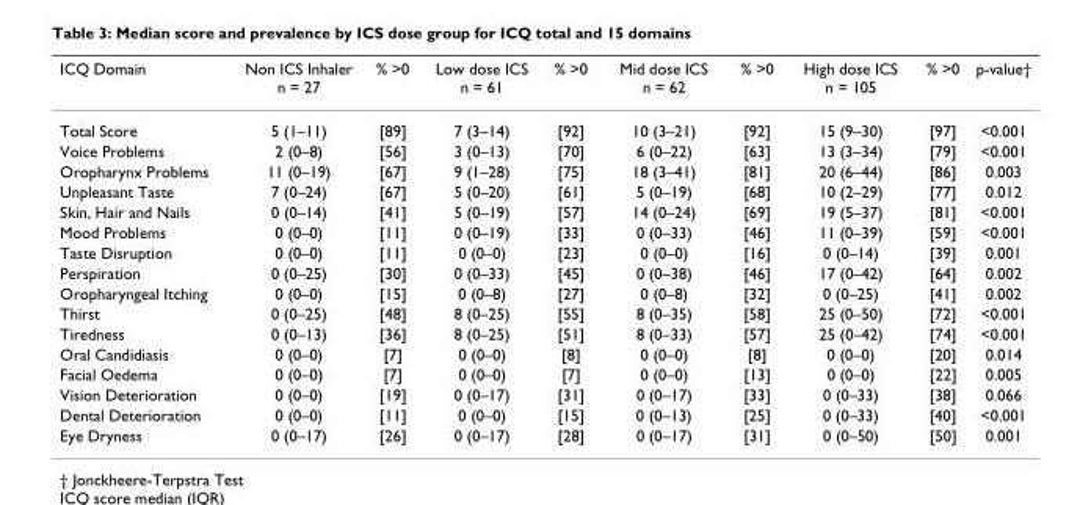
<table><thead><tr><td>ICQ Domain</td><td>Non ICS Inhaler n = 27</td><td>% &gt;0</td><td>Low dose ICS n = 61</td><td>% &gt;0</td><td>Mid dose ICS n = 62</td><td>% &gt;0</td><td>High dose ICS n = 105</td><td>% &gt;0</td><td>p-value†</td></tr></thead><tbody><tr><td>Total Score</td><td>5 (1–11)</td><td>[89]</td><td>7 (3–14)</td><td>[92]</td><td>10 (3–21)</td><td>[92]</td><td>15 (9–30)</td><td>[97]</td><td>&lt;0.001</td></tr><tr><td>Voice Problems</td><td>2 (0–8)</td><td>[56]</td><td>3 (0–13)</td><td>[70]</td><td>6 (0–22)</td><td>[63]</td><td>13 (3–34)</td><td>[79]</td><td>&lt;0.001</td></tr><tr><td>Oropharynx Problems</td><td>11 (0–19)</td><td>[67]</td><td>9 (1–28)</td><td>[75]</td><td>18 (3–41)</td><td>[81]</td><td>20 (6–44)</td><td>[86]</td><td>0.003</td></tr><tr><td>Unpleasant Taste</td><td>7 (0–24)</td><td>[67]</td><td>5 (0–20)</td><td>[61]</td><td>5 (0–19)</td><td>[68]</td><td>10 (2–29)</td><td>[77]</td><td>0.012</td></tr><tr><td>Skin, Hair and Nails</td><td>0 (0–14)</td><td>[41]</td><td>5 (0–19)</td><td>[57]</td><td>14 (0–24)</td><td>[69]</td><td>19 (5–37)</td><td>[81]</td><td>&lt;0.001</td></tr><tr><td>Mood Problems</td><td>0 (0–0)</td><td>[11]</td><td>0 (0–19)</td><td>[33]</td><td>0 (0–33)</td><td>[46]</td><td>11 (0–39)</td><td>[59]</td><td>&lt;0.001</td></tr><tr><td>Taste Disruption</td><td>0 (0–0)</td><td>[11]</td><td>0 (0–0)</td><td>[23]</td><td>0 (0–0)</td><td>[16]</td><td>0 (0–14)</td><td>[39]</td><td>0.001</td></tr><tr><td>Perspiration</td><td>0 (0–25)</td><td>[30]</td><td>0 (0–33)</td><td>[45]</td><td>0 (0–38)</td><td>[46]</td><td>17 (0–42)</td><td>[64]</td><td>0.002</td></tr><tr><td>Oropharyngeal Itching</td><td>0 (0–0)</td><td>[15]</td><td>0 (0–8)</td><td>[27]</td><td>0 (0–8)</td><td>[32]</td><td>0 (0–25)</td><td>[41]</td><td>0.002</td></tr><tr><td>Thirst</td><td>0 (0–25)</td><td>[48]</td><td>8 (0–25)</td><td>[55]</td><td>8 (0–35)</td><td>[58]</td><td>25 (0–50)</td><td>[72]</td><td>&lt;0.001</td></tr><tr><td>Tiredness</td><td>0 (0–13)</td><td>[36]</td><td>8 (0–25)</td><td>[51]</td><td>8 (0–33)</td><td>[57]</td><td>25 (0–42)</td><td>[74]</td><td>&lt;0.001</td></tr><tr><td>Oral Candidiasis</td><td>0 (0–0)</td><td>[7]</td><td>0 (0–0)</td><td>[8]</td><td>0 (0–0)</td><td>[8]</td><td>0 (0–0)</td><td>[20]</td><td>0.014</td></tr><tr><td>Facial Oedema</td><td>0 (0–0)</td><td>[7]</td><td>0 (0–0)</td><td>[7]</td><td>0 (0–0)</td><td>[13]</td><td>0 (0–0)</td><td>[22]</td><td>0.005</td></tr><tr><td>Vision Deterioration</td><td>0 (0–0)</td><td>[19]</td><td>0 (0–17)</td><td>[31]</td><td>0 (0–17)</td><td>[33]</td><td>0 (0–33)</td><td>[38]</td><td>0.066</td></tr><tr><td>Dental Deterioration</td><td>0 (0–0)</td><td>[11]</td><td>0 (0–0)</td><td>[15]</td><td>0 (0–13)</td><td>[25]</td><td>0 (0–33)</td><td>[40]</td><td>&lt;0.001</td></tr><tr><td>Eye Dryness</td><td>0 (0–17)</td><td>[26]</td><td>0 (0–17)</td><td>[28]</td><td>0 (0–17)</td><td>[31]</td><td>0 (0–50)</td><td>[50]</td><td>0.001</td></tr></tbody></table>